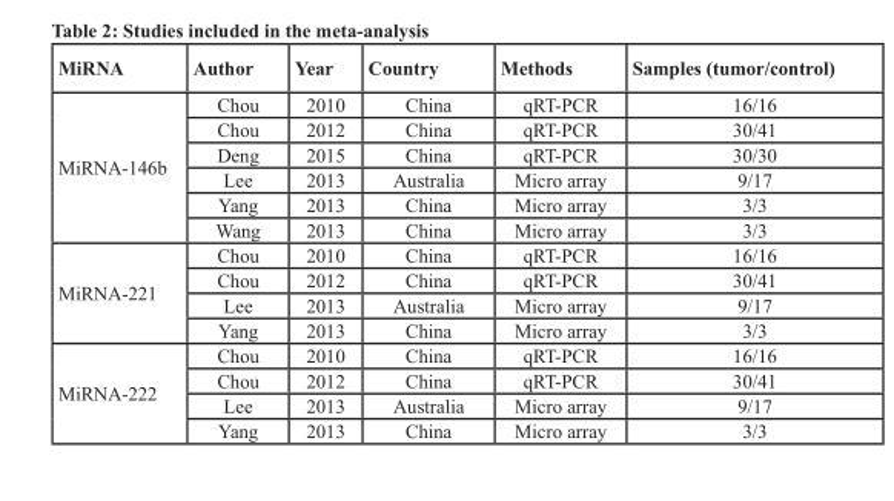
<table><thead><tr><td>MiRNA</td><td>Author</td><td>Year</td><td>Country</td><td>Methods</td><td>Samples (tumor/control)</td></tr></thead><tbody><tr><td rowspan="6">MiRNA-146b</td><td>Chou</td><td>2010</td><td>China</td><td>qRT-PCR</td><td>16/16</td></tr><tr><td>Chou</td><td>2012</td><td>China</td><td>qRT-PCR</td><td>30/41</td></tr><tr><td>Deng</td><td>2015</td><td>China</td><td>qRT-PCR</td><td>30/30</td></tr><tr><td>Lee</td><td>2013</td><td>Australia</td><td>Micro array</td><td>9/17</td></tr><tr><td>Yang</td><td>2013</td><td>China</td><td>Micro array</td><td>3/3</td></tr><tr><td>Wang</td><td>2013</td><td>China</td><td>Micro array</td><td>3/3</td></tr><tr><td rowspan="4">MiRNA-221</td><td>Chou</td><td>2010</td><td>China</td><td>qRT-PCR</td><td>16/16</td></tr><tr><td>Chou</td><td>2012</td><td>China</td><td>qRT-PCR</td><td>30/41</td></tr><tr><td>Lee</td><td>2013</td><td>Australia</td><td>Micro array</td><td>9/17</td></tr><tr><td>Yang</td><td>2013</td><td>China</td><td>Micro array</td><td>3/3</td></tr><tr><td rowspan="4">MiRNA-222</td><td>Chou</td><td>2010</td><td>China</td><td>qRT-PCR</td><td>16/16</td></tr><tr><td>Chou</td><td>2012</td><td>China</td><td>qRT-PCR</td><td>30/41</td></tr><tr><td>Lee</td><td>2013</td><td>Australia</td><td>Micro array</td><td>9/17</td></tr><tr><td>Yang</td><td>2013</td><td>China</td><td>Micro array</td><td>3/3</td></tr></tbody></table>